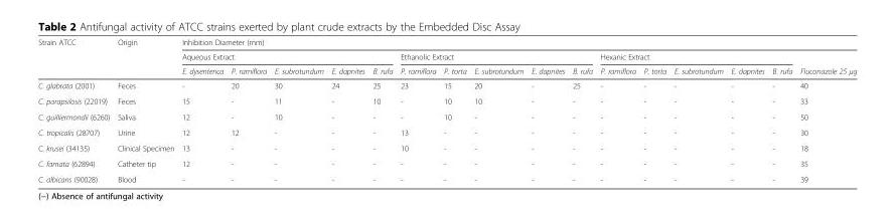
<table><thead><tr><td rowspan="3">Strain ATCC</td><td rowspan="3">Origin</td><td colspan="16">Inhibition Diameter (mm)</td></tr><tr><td colspan="5">Aqueous Extract</td><td colspan="5">Ethanolic Extract</td><td colspan="5">Hexanic Extract</td><td rowspan="2">Fluconazole 25 μg</td></tr><tr><td>E. dysenterica</td><td>P. ramiflora</td><td>E. subrotundum</td><td>E. dapnites</td><td>B. rufa</td><td>P. ramiflora</td><td>P. torta</td><td>E. subrotundum</td><td>E. dapnites</td><td>B. rufa</td><td>P. ramiflora</td><td>P. torta</td><td>E. subrotundum</td><td>E. dapnites</td><td>B. rufa</td></tr></thead><tbody><tr><td>C. glabrata (2001)</td><td>Feces</td><td>-</td><td>20</td><td>30</td><td>24</td><td>25</td><td>23</td><td>15</td><td>20</td><td>-</td><td>25</td><td>-</td><td>-</td><td>-</td><td>-</td><td>-</td><td>40</td></tr><tr><td>C. parapsilosis (22019)</td><td>Feces</td><td>15</td><td>-</td><td>11</td><td>-</td><td>10</td><td>-</td><td>10</td><td>10</td><td>-</td><td>-</td><td>-</td><td>-</td><td>-</td><td>-</td><td>-</td><td>33</td></tr><tr><td>C. guilliermondii (6260)</td><td>Saliva</td><td>12</td><td>-</td><td>10</td><td>-</td><td>-</td><td>-</td><td>10</td><td>-</td><td>-</td><td>-</td><td>-</td><td>-</td><td>-</td><td>-</td><td>-</td><td>50</td></tr><tr><td>C. tropicalis (28707)</td><td>Urine</td><td>12</td><td>12</td><td>-</td><td>-</td><td>-</td><td>13</td><td>-</td><td>-</td><td>-</td><td>-</td><td>-</td><td>-</td><td>-</td><td>-</td><td>-</td><td>30</td></tr><tr><td>C. krusei (34135)</td><td>Clinical Specimen</td><td>13</td><td>-</td><td>-</td><td>-</td><td>-</td><td>10</td><td>-</td><td>-</td><td>-</td><td>-</td><td>-</td><td>-</td><td>-</td><td>-</td><td>-</td><td>18</td></tr><tr><td>C. famata (62894)</td><td>Catheter tip</td><td>12</td><td>-</td><td>-</td><td>-</td><td>-</td><td>-</td><td>-</td><td>-</td><td>-</td><td>-</td><td>-</td><td>-</td><td>-</td><td>-</td><td>-</td><td>35</td></tr><tr><td>C. albicans (90028)</td><td>Blood</td><td>-</td><td>-</td><td>-</td><td>-</td><td>-</td><td>-</td><td>-</td><td>-</td><td>-</td><td>-</td><td>-</td><td>-</td><td>-</td><td>-</td><td>-</td><td>39</td></tr></tbody></table>